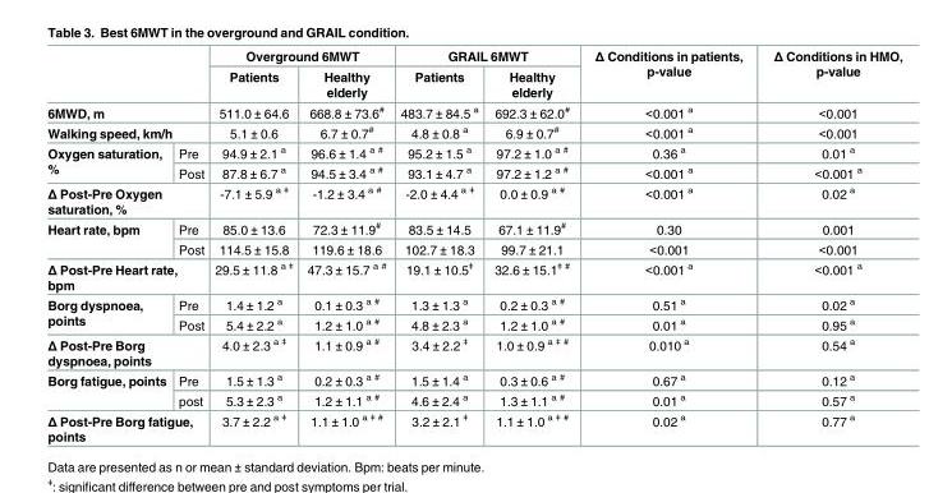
<table><thead><tr><td rowspan="2"></td><td rowspan="2"></td><td colspan="2">Overground 6MWT</td><td colspan="2">GRAIL 6MWT</td><td rowspan="2">Δ Conditions in patients, p-value</td><td rowspan="2">Δ Conditions in HMO, p-value</td></tr><tr><td>Patients</td><td>Healthy elderly</td><td>Patients</td><td>Healthy elderly</td></tr></thead><tbody><tr><td colspan="2">6MWD, m</td><td>511.0 ± 64.6</td><td>668.8 ± 73.6<sup>#</sup></td><td>483.7 ± 84.5 <sup>a</sup></td><td>692.3 ± 62.0<sup>#</sup></td><td>&lt;0.001 <sup>a</sup></td><td>&lt;0.001</td></tr><tr><td colspan="2">Walking speed, km/h</td><td>5.1 ± 0.6</td><td>6.7 ± 0.7<sup>#</sup></td><td>4.8 ± 0.8 <sup>a</sup></td><td>6.9 ± 0.7<sup>#</sup></td><td>&lt;0.001 <sup>a</sup></td><td>&lt;0.001</td></tr><tr><td rowspan="2">Oxygen saturation, %</td><td>Pre</td><td>94.9 ± 2.1 <sup>a</sup></td><td>96.6 ± 1.4 <sup>a #</sup></td><td>95.2 ± 1.5 <sup>a</sup></td><td>97.2 ± 1.0 <sup>a #</sup></td><td>0.36 <sup>a</sup></td><td>0.01 <sup>a</sup></td></tr><tr><td>Post</td><td>87.8 ± 6.7 <sup>a</sup></td><td>94.5 ± 3.4 <sup>a #</sup></td><td>93.1 ± 4.7 <sup>a</sup></td><td>97.2 ± 1.2 <sup>a #</sup></td><td>&lt;0.001 <sup>a</sup></td><td>&lt;0.001 <sup>a</sup></td></tr><tr><td colspan="2">Δ Post-Pre Oxygen saturation, %</td><td>-7.1 ± 5.9 <sup>a ǂ</sup></td><td>-1.2 ± 3.4 <sup>a #</sup></td><td>-2.0 ± 4.4 <sup>a ǂ</sup></td><td>0.0 ± 0.9 <sup>a #</sup></td><td>&lt;0.001 <sup>a</sup></td><td>0.02 <sup>a</sup></td></tr><tr><td rowspan="2">Heart rate, bpm</td><td>Pre</td><td>85.0 ± 13.6</td><td>72.3 ± 11.9<sup>#</sup></td><td>83.5 ± 14.5</td><td>67.1 ± 11.9<sup>#</sup></td><td>0.30</td><td>0.001</td></tr><tr><td>Post</td><td>114.5 ± 15.8</td><td>119.6 ± 18.6</td><td>102.7 ± 18.3</td><td>99.7 ± 21.1</td><td>&lt;0.001</td><td>&lt;0.001</td></tr><tr><td colspan="2">Δ Post-Pre Heart rate, bpm</td><td>29.5 ± 11.8 <sup>a ǂ</sup></td><td>47.3 ± 15.7 <sup>a #</sup></td><td>19.1 ± 10.5<sup>ǂ</sup></td><td>32.6 ± 15.1<sup>ǂ #</sup></td><td>&lt;0.001 <sup>a</sup></td><td>&lt;0.001 <sup>a</sup></td></tr><tr><td rowspan="2">Borg dyspnoea, points</td><td>Pre</td><td>1.4 ± 1.2 <sup>a</sup></td><td>0.1 ± 0.3 <sup>a #</sup></td><td>1.3 ± 1.3 <sup>a</sup></td><td>0.2 ± 0.3 <sup>a #</sup></td><td>0.51 <sup>a</sup></td><td>0.02 <sup>a</sup></td></tr><tr><td>Post</td><td>5.4 ± 2.2 <sup>a</sup></td><td>1.2 ± 1.0 <sup>a #</sup></td><td>4.8 ± 2.3 <sup>a</sup></td><td>1.2 ± 1.0 <sup>a #</sup></td><td>0.01 <sup>a</sup></td><td>0.95 <sup>a</sup></td></tr><tr><td colspan="2">Δ Post-Pre Borg dyspnoea, points</td><td>4.0 ± 2.3 <sup>a ǂ</sup></td><td>1.1 ± 0.9 <sup>a #</sup></td><td>3.4 ± 2.2 <sup>ǂ</sup></td><td>1.0 ± 0.9 <sup>a ǂ #</sup></td><td>0.010 <sup>a</sup></td><td>0.54 <sup>a</sup></td></tr><tr><td rowspan="2">Borg fatigue, points</td><td>Pre</td><td>1.5 ± 1.3 <sup>a</sup></td><td>0.2 ± 0.3 <sup>a #</sup></td><td>1.5 ± 1.4 <sup>a</sup></td><td>0.3 ± 0.6 <sup>a #</sup></td><td>0.67 <sup>a</sup></td><td>0.12 <sup>a</sup></td></tr><tr><td>post</td><td>5.3 ± 2.3 <sup>a</sup></td><td>1.2 ± 1.1 <sup>a #</sup></td><td>4.6 ± 2.4 <sup>a</sup></td><td>1.3 ± 1.1 <sup>a #</sup></td><td>0.01 <sup>a</sup></td><td>0.57 <sup>a</sup></td></tr><tr><td colspan="2">Δ Post-Pre Borg fatigue, points</td><td>3.7 ± 2.2 <sup>a ǂ</sup></td><td>1.1 ± 1.0 <sup>a ǂ #</sup></td><td>3.2 ± 2.1 <sup>ǂ</sup></td><td>1.1 ± 1.0 <sup>a ǂ #</sup></td><td>0.02 <sup>a</sup></td><td>0.77 <sup>a</sup></td></tr></tbody></table>